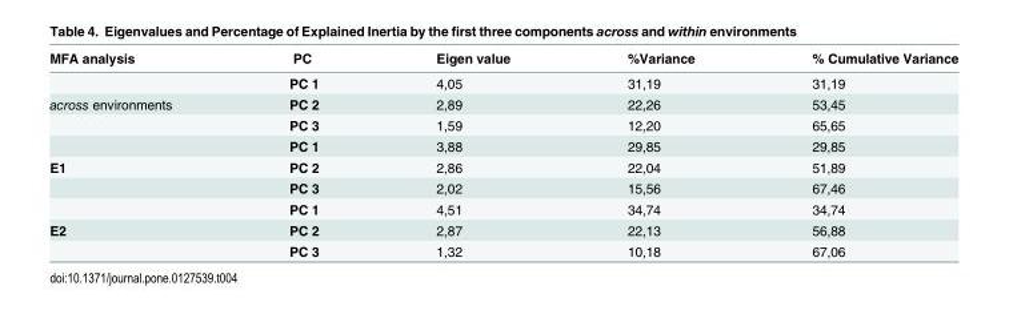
<table><thead><tr><td>MFA analysis</td><td>PC</td><td>Eigen value</td><td>%Variance</td><td>% Cumulative Variance</td></tr></thead><tbody><tr><td></td><td>PC 1</td><td>4,05</td><td>31,19</td><td>31,19</td></tr><tr><td rowspan="3">across environments</td><td>PC 2</td><td>2,89</td><td>22,26</td><td>53,45</td></tr><tr><td>PC 3</td><td>1,59</td><td>12,20</td><td>65,65</td></tr><tr><td>PC 1</td><td>3,88</td><td>29,85</td><td>29,85</td></tr><tr><td rowspan="3">E1</td><td>PC 2</td><td>2,86</td><td>22,04</td><td>51,89</td></tr><tr><td>PC 3</td><td>2,02</td><td>15,56</td><td>67,46</td></tr><tr><td>PC 1</td><td>4,51</td><td>34,74</td><td>34,74</td></tr><tr><td rowspan="2">E2</td><td>PC 2</td><td>2,87</td><td>22,13</td><td>56,88</td></tr><tr><td>PC 3</td><td>1,32</td><td>10,18</td><td>67,06</td></tr></tbody></table>